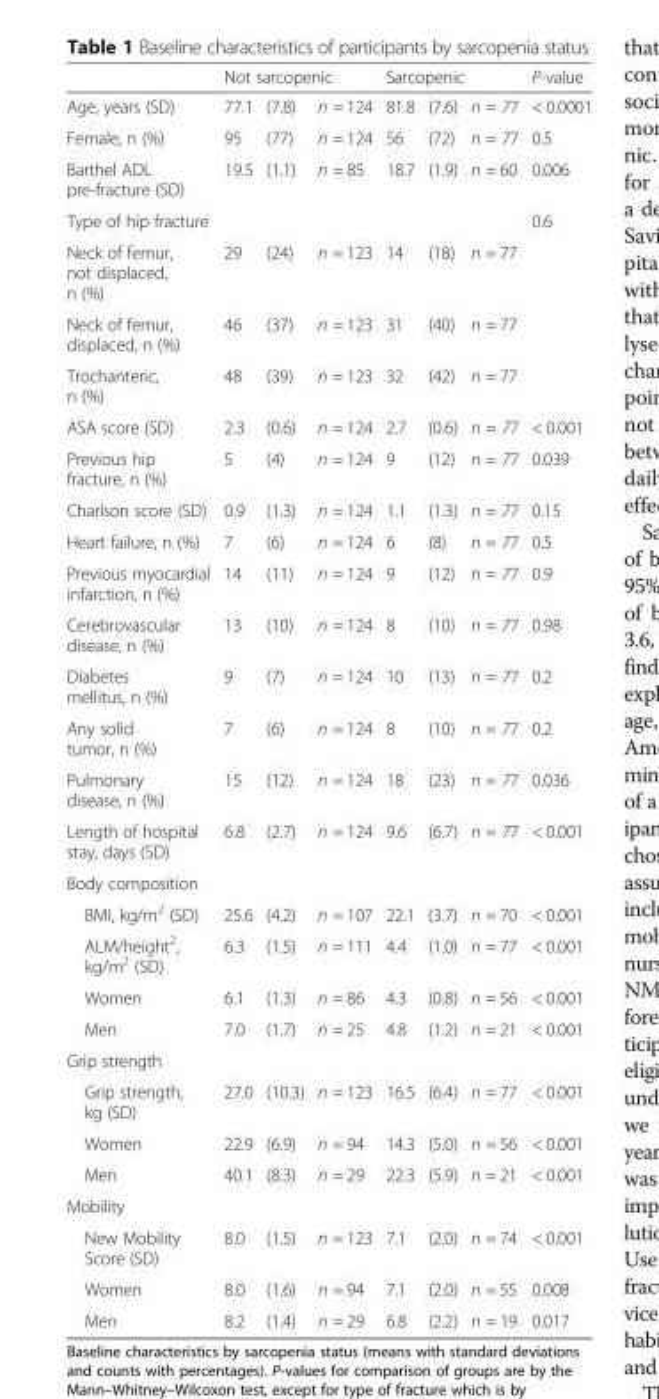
<table><thead><tr><td rowspan="2">Age, years (SD)</td><td colspan="3">Not sarcopenic</td><td colspan="3">Sarcopenic</td><td rowspan="2">P-value &lt; 0.0001</td></tr><tr><td>77.1</td><td>(7.8)</td><td>n = 124</td><td>81.8</td><td>(7.6)</td><td>n = 77</td></tr></thead><tbody><tr><td>Female, n (%)</td><td>95</td><td>(77)</td><td>n = 124</td><td>56</td><td>(72)</td><td>n = 77</td><td>0.5</td></tr><tr><td>Barthel ADL pre-fracture (SD)</td><td>19.5</td><td>(1.1)</td><td>n = 85</td><td>18.7</td><td>(1.9)</td><td>n = 60</td><td>0.006</td></tr><tr><td>Type of hip fracture</td><td colspan="6"></td><td>0.6</td></tr><tr><td>Neck of femur, not displaced, n (%)</td><td>29</td><td>(24)</td><td>n = 123</td><td>14</td><td>(18)</td><td>n = 77</td><td></td></tr><tr><td>Neck of femur, displaced, n (%)</td><td>46</td><td>(37)</td><td>n = 123</td><td>31</td><td>(40)</td><td>n = 77</td><td></td></tr><tr><td>Trochanteric, n (%)</td><td>48</td><td>(39)</td><td>n = 123</td><td>32</td><td>(42)</td><td>n = 77</td><td></td></tr><tr><td>ASA score (SD)</td><td>2.3</td><td>(0.6)</td><td>n = 124</td><td>2.7</td><td>(0.6)</td><td>n = 77</td><td>&lt; 0.001</td></tr><tr><td>Previous hip fracture, n (%)</td><td>5</td><td>(4)</td><td>n = 124</td><td>9</td><td>(12)</td><td>n = 77</td><td>0.039</td></tr><tr><td>Charlson score (SD)</td><td>0.9</td><td>(1.3)</td><td>n = 124</td><td>1.1</td><td>(1.3)</td><td>n = 77</td><td>0.15</td></tr><tr><td>Heart failure, n (%)</td><td>7</td><td>(6)</td><td>n = 124</td><td>6</td><td>(8)</td><td>n = 77</td><td>0.5</td></tr><tr><td>Previous myocardial infarction, n (%)</td><td>14</td><td>(11)</td><td>n = 124</td><td>9</td><td>(12)</td><td>n = 77</td><td>0.9</td></tr><tr><td>Cerebrovascular disease, n (%)</td><td>13</td><td>(10)</td><td>n = 124</td><td>8</td><td>(10)</td><td>n = 77</td><td>0.98</td></tr><tr><td>Diabetes mellitus, n (%)</td><td>9</td><td>(7)</td><td>n = 124</td><td>10</td><td>(13)</td><td>n = 77</td><td>0.2</td></tr><tr><td>Any solid tumor, n (%)</td><td>7</td><td>(6)</td><td>n = 124</td><td>8</td><td>(10)</td><td>n = 77</td><td>0.2</td></tr><tr><td>Pulmonary disease, n (%)</td><td>15</td><td>(12)</td><td>n = 124</td><td>18</td><td>(23)</td><td>n = 77</td><td>0.036</td></tr><tr><td>Length of hospital stay, days (SD)</td><td>6.8</td><td>(2.7)</td><td>n = 124</td><td>9.6</td><td>(6.7)</td><td>n = 77</td><td>&lt; 0.001</td></tr><tr><td colspan="8">Body composition</td></tr><tr><td>BMI, kg/m<sup>2</sup> (SD)</td><td>25.6</td><td>(4.2)</td><td>n = 107</td><td>22.1</td><td>(3.7)</td><td>n = 70</td><td>&lt; 0.001</td></tr><tr><td>ALM/height<sup>2</sup>, kg/m<sup>2</sup> (SD)</td><td>6.3</td><td>(1.5)</td><td>n = 111</td><td>4.4</td><td>(1.0)</td><td>n = 77</td><td>&lt; 0.001</td></tr><tr><td>Women</td><td>6.1</td><td>(1.3)</td><td>n = 86</td><td>4.3</td><td>(0.8)</td><td>n = 56</td><td>&lt; 0.001</td></tr><tr><td>Men</td><td>7.0</td><td>(1.7)</td><td>n = 25</td><td>4.8</td><td>(1.2)</td><td>n = 21</td><td>&lt; 0.001</td></tr><tr><td colspan="8">Grip strength</td></tr><tr><td>Grip strength, kg (SD)</td><td>27.0</td><td>(10.3)</td><td>n = 123</td><td>16.5</td><td>(6.4)</td><td>n = 77</td><td>&lt; 0.001</td></tr><tr><td>Women</td><td>22.9</td><td>(6.9)</td><td>n = 94</td><td>14.3</td><td>(5.0)</td><td>n = 56</td><td>&lt; 0.001</td></tr><tr><td>Men</td><td>40.1</td><td>(8.3)</td><td>n = 29</td><td>22.3</td><td>(5.9)</td><td>n = 21</td><td>&lt; 0.001</td></tr><tr><td colspan="8">Mobility</td></tr><tr><td>New Mobility Score (SD)</td><td>8.0</td><td>(1.5)</td><td>n = 123</td><td>7.1</td><td>(2.0)</td><td>n = 74</td><td>&lt; 0.001</td></tr><tr><td>Women</td><td>8.0</td><td>(1.6)</td><td>n = 94</td><td>7.1</td><td>(2.0)</td><td>n = 55</td><td>0.008</td></tr><tr><td>Men</td><td>8.2</td><td>(1.4)</td><td>n = 29</td><td>6.8</td><td>(2.2)</td><td>n = 19</td><td>0.017</td></tr></tbody></table>